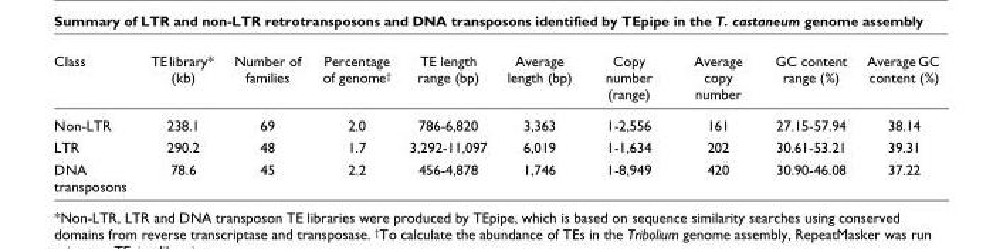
<table><thead><tr><td>Class</td><td>TE library* (kb)</td><td>Number of families</td><td>Percentage of genome<sup>†</sup></td><td>TE length range (bp)</td><td>Average length (bp)</td><td>Copy number (range)</td><td>Average copy number</td><td>GC content range (%)</td><td>Average GC content (%)</td></tr></thead><tbody><tr><td>Non-LTR</td><td>238.1</td><td>69</td><td>2.0</td><td>786-6,820</td><td>3,363</td><td>1-2,556</td><td>161</td><td>27.15-57.94</td><td>38.14</td></tr><tr><td>LTR</td><td>290.2</td><td>48</td><td>1.7</td><td>3,292-11,097</td><td>6,019</td><td>1-1,634</td><td>202</td><td>30.61-53.21</td><td>39.31</td></tr><tr><td>DNA transposons</td><td>78.6</td><td>45</td><td>2.2</td><td>456-4,878</td><td>1,746</td><td>1-8,949</td><td>420</td><td>30.90-46.08</td><td>37.22</td></tr></tbody></table>